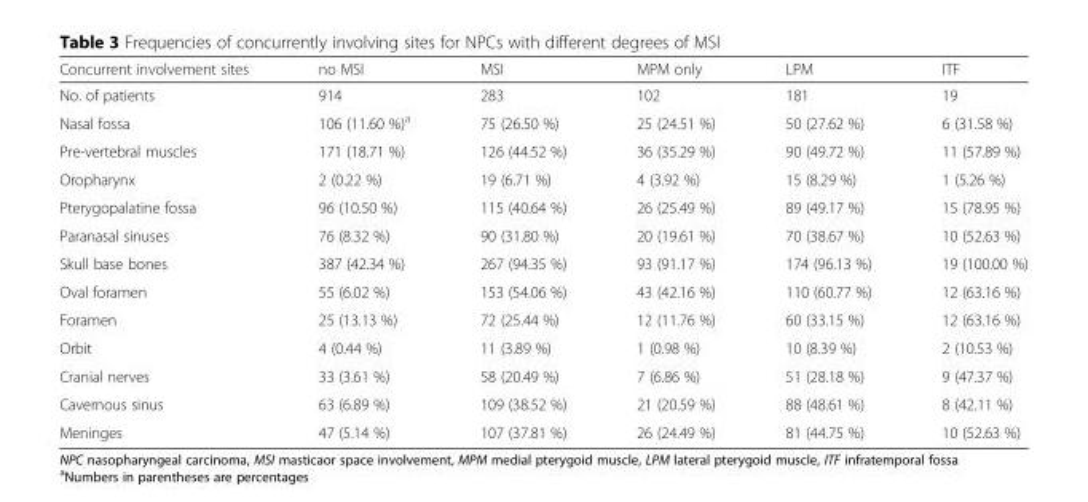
<table><thead><tr><td>Concurrent involvement sites</td><td>no MSI</td><td>MSI</td><td>MPM only</td><td>LPM</td><td>ITF</td></tr></thead><tbody><tr><td>No. of patients</td><td>914</td><td>283</td><td>102</td><td>181</td><td>19</td></tr><tr><td>Nasal fossa</td><td>106 (11.60 %)<sup>a</sup></td><td>75 (26.50 %)</td><td>25 (24.51 %)</td><td>50 (27.62 %)</td><td>6 (31.58 %)</td></tr><tr><td>Pre-vertebral muscles</td><td>171 (18.71 %)</td><td>126 (44.52 %)</td><td>36 (35.29 %)</td><td>90 (49.72 %)</td><td>11 (57.89 %)</td></tr><tr><td>Oropharynx</td><td>2 (0.22 %)</td><td>19 (6.71 %)</td><td>4 (3.92 %)</td><td>15 (8.29 %)</td><td>1 (5.26 %)</td></tr><tr><td>Pterygopalatine fossa</td><td>96 (10.50 %)</td><td>115 (40.64 %)</td><td>26 (25.49 %)</td><td>89 (49.17 %)</td><td>15 (78.95 %)</td></tr><tr><td>Paranasal sinuses</td><td>76 (8.32 %)</td><td>90 (31.80 %)</td><td>20 (19.61 %)</td><td>70 (38.67 %)</td><td>10 (52.63 %)</td></tr><tr><td>Skull base bones</td><td>387 (42.34 %)</td><td>267 (94.35 %)</td><td>93 (91.17 %)</td><td>174 (96.13 %)</td><td>19 (100.00 %)</td></tr><tr><td>Oval foramen</td><td>55 (6.02 %)</td><td>153 (54.06 %)</td><td>43 (42.16 %)</td><td>110 (60.77 %)</td><td>12 (63.16 %)</td></tr><tr><td>Foramen</td><td>25 (13.13 %)</td><td>72 (25.44 %)</td><td>12 (11.76 %)</td><td>60 (33.15 %)</td><td>12 (63.16 %)</td></tr><tr><td>Orbit</td><td>4 (0.44 %)</td><td>11 (3.89 %)</td><td>1 (0.98 %)</td><td>10 (8.39 %)</td><td>2 (10.53 %)</td></tr><tr><td>Cranial nerves</td><td>33 (3.61 %)</td><td>58 (20.49 %)</td><td>7 (6.86 %)</td><td>51 (28.18 %)</td><td>9 (47.37 %)</td></tr><tr><td>Cavernous sinus</td><td>63 (6.89 %)</td><td>109 (38.52 %)</td><td>21 (20.59 %)</td><td>88 (48.61 %)</td><td>8 (42.11 %)</td></tr><tr><td>Meninges</td><td>47 (5.14 %)</td><td>107 (37.81 %)</td><td>26 (24.49 %)</td><td>81 (44.75 %)</td><td>10 (52.63 %)</td></tr></tbody></table>